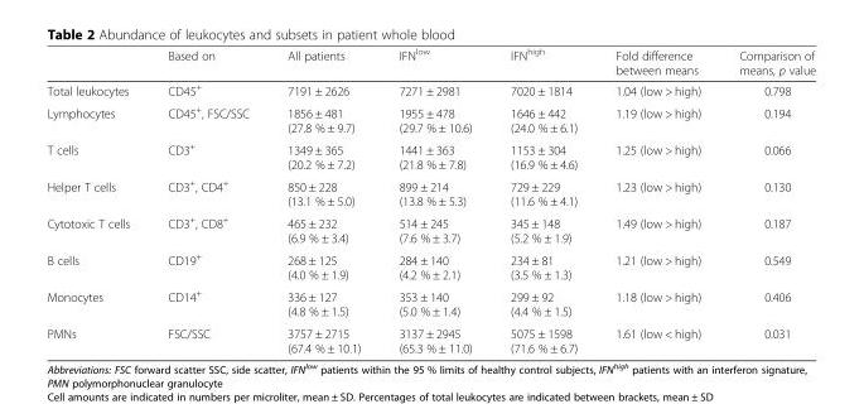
<table><thead><tr><td></td><td>Based on</td><td>All patients</td><td>IFN<sup>low</sup></td><td>IFN<sup>high</sup></td><td>Fold difference between means</td><td>Comparison of means, p value</td></tr></thead><tbody><tr><td>Total leukocytes</td><td>CD45<sup>+</sup></td><td>7191 ± 2626</td><td>7271 ± 2981</td><td>7020 ± 1814</td><td>1.04 (low &gt; high)</td><td>0.798</td></tr><tr><td>Lymphocytes</td><td>CD45<sup>+</sup>, FSC/SSC</td><td>1856 ± 481 (27.8 % ± 9.7)</td><td>1955 ± 478 (29.7 % ± 10.6)</td><td>1646 ± 442 (24.0 % ± 6.1)</td><td>1.19 (low &gt; high)</td><td>0.194</td></tr><tr><td>T cells</td><td>CD3<sup>+</sup></td><td>1349 ± 365 (20.2 % ± 7.2)</td><td>1441 ± 363 (21.8 % ± 7.8)</td><td>1153 ± 304 (16.9 % ± 4.6)</td><td>1.25 (low &gt; high)</td><td>0.066</td></tr><tr><td>Helper T cells</td><td>CD3<sup>+</sup>, CD4<sup>+</sup></td><td>850 ± 228 (13.1 % ± 5.0)</td><td>899 ± 214 (13.8 % ± 5.3)</td><td>729 ± 229 (11.6 % ± 4.1)</td><td>1.23 (low &gt; high)</td><td>0.130</td></tr><tr><td>Cytotoxic T cells</td><td>CD3<sup>+</sup>, CD8<sup>+</sup></td><td>465 ± 232 (6.9 % ± 3.4)</td><td>514 ± 245 (7.6 % ± 3.7)</td><td>345 ± 148 (5.2 % ± 1.9)</td><td>1.49 (low &gt; high)</td><td>0.187</td></tr><tr><td>B cells</td><td>CD19<sup>+</sup></td><td>268 ± 125 (4.0 % ± 1.9)</td><td>284 ± 140 (4.2 % ± 2.1)</td><td>234 ± 81 (3.5 % ± 1.3)</td><td>1.21 (low &gt; high)</td><td>0.549</td></tr><tr><td>Monocytes</td><td>CD14<sup>+</sup></td><td>336 ± 127 (4.8 % ± 1.5)</td><td>353 ± 140 (5.0 % ± 1.4)</td><td>299 ± 92 (4.4 % ± 1.5)</td><td>1.18 (low &gt; high)</td><td>0.406</td></tr><tr><td>PMNs</td><td>FSC/SSC</td><td>3757 ± 2715 (67.4 % ± 10.1)</td><td>3137 ± 2945 (65.3 % ± 11.0)</td><td>5075 ± 1598 (71.6 % ± 6.7)</td><td>1.61 (low &lt; high)</td><td>0.031</td></tr></tbody></table>